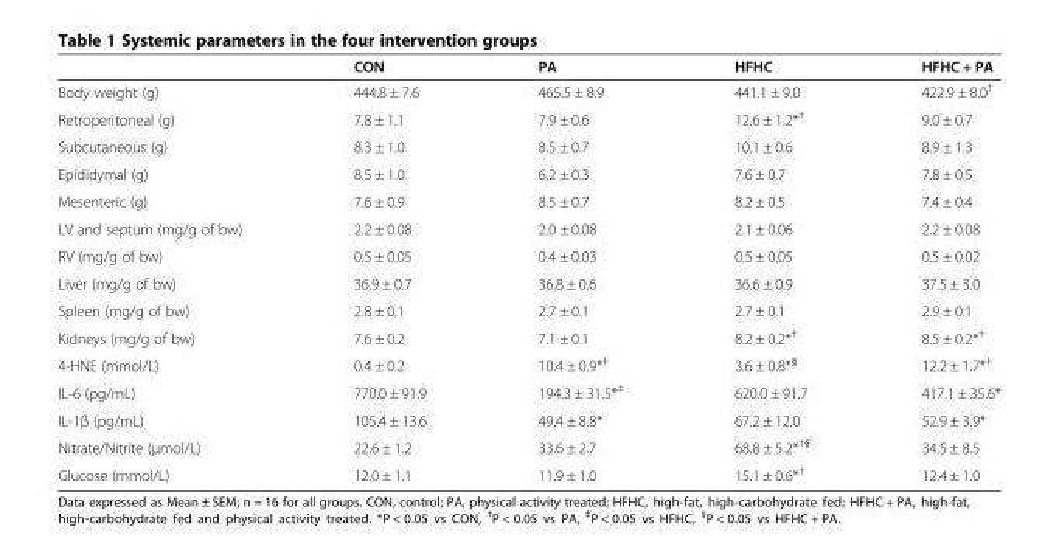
<table><thead><tr><td></td><td>CON</td><td>PA</td><td>HFHC</td><td>HFHC + PA</td></tr></thead><tbody><tr><td>Body weight (g)</td><td>444.8 ± 7.6</td><td>465.5 ± 8.9</td><td>441.1 ± 9.0</td><td>422.9 ± 8.0<sup>†</sup></td></tr><tr><td>Retroperitoneal (g)</td><td>7.8 ± 1.1</td><td>7.9 ± 0.6</td><td>12.6 ± 1.2*<sup>†</sup></td><td>9.0 ± 0.7</td></tr><tr><td>Subcutaneous (g)</td><td>8.3 ± 1.0</td><td>8.5 ± 0.7</td><td>10.1 ± 0.6</td><td>8.9 ± 1.3</td></tr><tr><td>Epididymal (g)</td><td>8.5 ± 1.0</td><td>6.2 ± 0.3</td><td>7.6 ± 0.7</td><td>7.8 ± 0.5</td></tr><tr><td>Mesenteric (g)</td><td>7.6 ± 0.9</td><td>8.5 ± 0.7</td><td>8.2 ± 0.5</td><td>7.4 ± 0.4</td></tr><tr><td>LV and septum (mg/g of bw)</td><td>2.2 ± 0.08</td><td>2.0 ± 0.08</td><td>2.1 ± 0.06</td><td>2.2 ± 0.08</td></tr><tr><td>RV (mg/g of bw)</td><td>0.5 ± 0.05</td><td>0.4 ± 0.03</td><td>0.5 ± 0.05</td><td>0.5 ± 0.02</td></tr><tr><td>Liver (mg/g of bw)</td><td>36.9 ± 0.7</td><td>36.8 ± 0.6</td><td>36.6 ± 0.9</td><td>37.5 ± 3.0</td></tr><tr><td>Spleen (mg/g of bw)</td><td>2.8 ± 0.1</td><td>2.7 ± 0.1</td><td>2.7 ± 0.1</td><td>2.9 ± 0.1</td></tr><tr><td>Kidneys (mg/g of bw)</td><td>7.6 ± 0.2</td><td>7.1 ± 0.1</td><td>8.2 ± 0.2*<sup>†</sup></td><td>8.5 ± 0.2*<sup>†</sup></td></tr><tr><td>4-HNE (mmol/L)</td><td>0.4 ± 0.2</td><td>10.4 ± 0.9*<sup>‡</sup></td><td>3.6 ± 0.8*<sup>§</sup></td><td>12.2 ± 1.7*<sup>‡</sup></td></tr><tr><td>IL-6 (pg/mL)</td><td>770.0 ± 91.9</td><td>194.3 ± 31.5*<sup>‡</sup></td><td>620.0 ± 91.7</td><td>417.1 ± 35.6*</td></tr><tr><td>IL-1β (pg/mL)</td><td>105.4 ± 13.6</td><td>49.4 ± 8.8*</td><td>67.2 ± 12.0</td><td>52.9 ± 3.9*</td></tr><tr><td>Nitrate/Nitrite (μmol/L)</td><td>22.6 ± 1.2</td><td>33.6 ± 2.7</td><td>68.8 ± 5.2*<sup>†§</sup></td><td>34.5 ± 8.5</td></tr><tr><td>Glucose (mmol/L)</td><td>12.0 ± 1.1</td><td>11.9 ± 1.0</td><td>15.1 ± 0.6*<sup>†</sup></td><td>12.4 ± 1.0</td></tr></tbody></table>